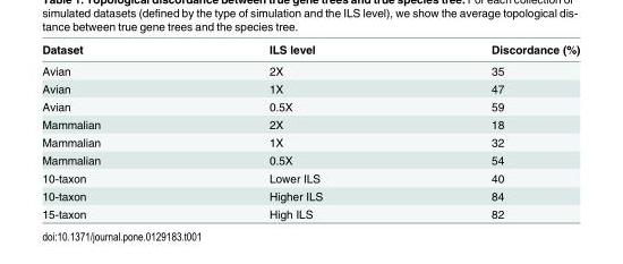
<table><thead><tr><td>Dataset</td><td>ILS level</td><td>Discordance (%)</td></tr></thead><tbody><tr><td>Avian</td><td>2X</td><td>35</td></tr><tr><td>Avian</td><td>1X</td><td>47</td></tr><tr><td>Avian</td><td>0.5X</td><td>59</td></tr><tr><td>Mammalian</td><td>2X</td><td>18</td></tr><tr><td>Mammalian</td><td>1X</td><td>32</td></tr><tr><td>Mammalian</td><td>0.5X</td><td>54</td></tr><tr><td>10-taxon</td><td>Lower ILS</td><td>40</td></tr><tr><td>10-taxon</td><td>Higher ILS</td><td>84</td></tr><tr><td>15-taxon</td><td>High ILS</td><td>82</td></tr></tbody></table>